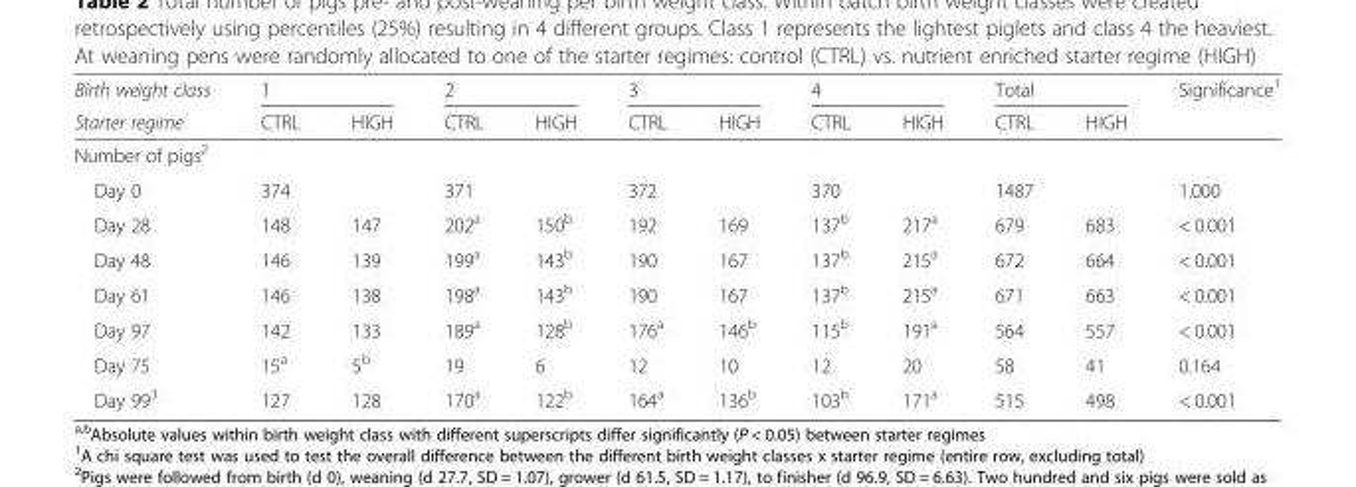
<table><thead><tr><td rowspan="2">Birth weight class Starter regime</td><td colspan="2">1</td><td colspan="2">2</td><td colspan="2">3</td><td colspan="2">4</td><td colspan="2">Total</td><td rowspan="2">Significance<sup>1</sup></td></tr><tr><td>CTRL</td><td>HIGH</td><td>CTRL</td><td>HIGH</td><td>CTRL</td><td>HIGH</td><td>CTRL</td><td>HIGH</td><td>CTRL</td><td>HIGH</td></tr></thead><tbody><tr><td colspan="12">Number of pigs<sup>2</sup></td></tr><tr><td>Day 0</td><td colspan="2">374</td><td colspan="2">371</td><td colspan="2">372</td><td colspan="2">370</td><td colspan="2">1487</td><td>1.000</td></tr><tr><td>Day 28</td><td>148</td><td>147</td><td>202<sup>a</sup></td><td>150<sup>b</sup></td><td>192</td><td>169</td><td>137<sup>b</sup></td><td>217<sup>a</sup></td><td>679</td><td>683</td><td>&lt; 0.001</td></tr><tr><td>Day 48</td><td>146</td><td>139</td><td>199<sup>a</sup></td><td>143<sup>b</sup></td><td>190</td><td>167</td><td>137<sup>b</sup></td><td>215<sup>a</sup></td><td>672</td><td>664</td><td>&lt; 0.001</td></tr><tr><td>Day 61</td><td>146</td><td>138</td><td>198<sup>a</sup></td><td>143<sup>b</sup></td><td>190</td><td>167</td><td>137<sup>b</sup></td><td>215<sup>a</sup></td><td>671</td><td>663</td><td>&lt; 0.001</td></tr><tr><td>Day 97</td><td>142</td><td>133</td><td>189<sup>a</sup></td><td>128<sup>b</sup></td><td>176<sup>a</sup></td><td>146<sup>b</sup></td><td>115<sup>b</sup></td><td>191<sup>a</sup></td><td>564</td><td>557</td><td>&lt; 0.001</td></tr><tr><td>Day 75</td><td>15<sup>a</sup></td><td>5<sup>b</sup></td><td>19</td><td>6</td><td>12</td><td>10</td><td>12</td><td>20</td><td>58</td><td>41</td><td>0.164</td></tr><tr><td>Day 99<sup>3</sup></td><td>127</td><td>128</td><td>170<sup>a</sup></td><td>122<sup>b</sup></td><td>164<sup>a</sup></td><td>136<sup>b</sup></td><td>103<sup>b</sup></td><td>171<sup>a</sup></td><td>515</td><td>498</td><td>&lt; 0.001</td></tr></tbody></table>